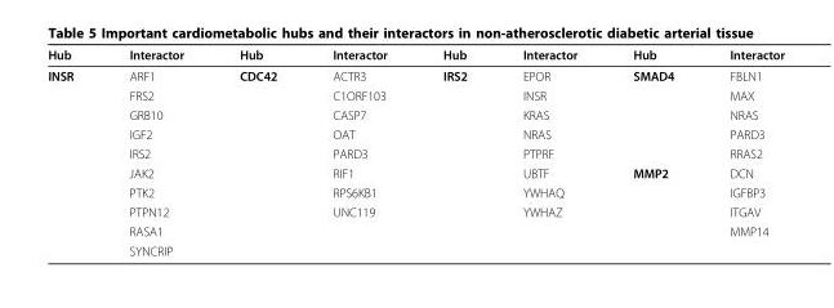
<table><thead><tr><td>Hub</td><td>Interactor</td><td>Hub</td><td>Interactor</td><td>Hub</td><td>Interactor</td><td>Hub</td><td>Interactor</td></tr></thead><tbody><tr><td rowspan="10">INSR</td><td>ARF1</td><td>CDC42</td><td>ACTR3</td><td>IRS2</td><td>EPOR</td><td>SMAD4</td><td>FBLN1</td></tr><tr><td>FRS2</td><td></td><td>C1ORF103</td><td></td><td>INSR</td><td></td><td>MAX</td></tr><tr><td>GRB10</td><td></td><td>CASP7</td><td></td><td>KRAS</td><td></td><td>NRAS</td></tr><tr><td>IGF2</td><td></td><td>OAT</td><td></td><td>NRAS</td><td></td><td>PARD3</td></tr><tr><td>IRS2</td><td></td><td>PARD3</td><td></td><td>PTPRF</td><td></td><td>RRAS2</td></tr><tr><td>JAK2</td><td></td><td>RIF1</td><td></td><td>UBTF</td><td>MMP2</td><td>DCN</td></tr><tr><td>PTK2</td><td></td><td>RPS6KB1</td><td></td><td>YWHAQ</td><td></td><td>IGFBP3</td></tr><tr><td>PTPN12</td><td></td><td>UNC119</td><td></td><td>YWHAZ</td><td></td><td>ITGAV</td></tr><tr><td>RASA1</td><td></td><td></td><td></td><td></td><td></td><td>MMP14</td></tr><tr><td>SYNCRIP</td><td></td><td></td><td></td><td></td><td></td><td></td></tr></tbody></table>